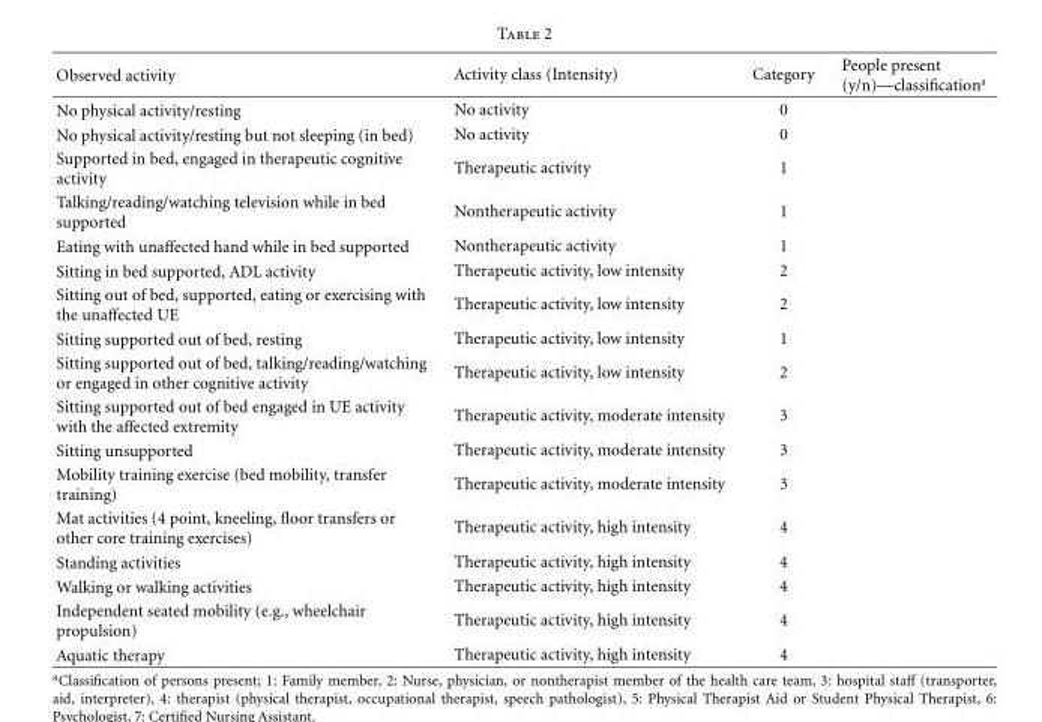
<table><thead><tr><td>Observed activity</td><td>Activity class (Intensity)</td><td>Category</td><td>People present (y/n)—classification<sup>a</sup></td></tr></thead><tbody><tr><td>No physical activity/resting</td><td>No activity</td><td>0</td><td></td></tr><tr><td>No physical activity/resting but not sleeping (in bed)</td><td>No activity</td><td>0</td><td></td></tr><tr><td>Supported in bed, engaged in therapeutic cognitive activity</td><td>Therapeutic activity</td><td>1</td><td></td></tr><tr><td>Talking/reading/watching television while in bed supported</td><td>Nontherapeutic activity</td><td>1</td><td></td></tr><tr><td>Eating with unaffected hand while in bed supported</td><td>Nontherapeutic activity</td><td>1</td><td></td></tr><tr><td>Sitting in bed supported, ADL activity</td><td>Therapeutic activity, low intensity</td><td>2</td><td></td></tr><tr><td>Sitting out of bed, supported, eating or exercising with the unaffected UE</td><td>Therapeutic activity, low intensity</td><td>2</td><td></td></tr><tr><td>Sitting supported out of bed, resting</td><td>Therapeutic activity, low intensity</td><td>1</td><td></td></tr><tr><td>Sitting supported out of bed, talking/reading/watching or engaged in other cognitive activity</td><td>Therapeutic activity, low intensity</td><td>2</td><td></td></tr><tr><td>Sitting supported out of bed engaged in UE activity with the affected extremity</td><td>Therapeutic activity, moderate intensity</td><td>3</td><td></td></tr><tr><td>Sitting unsupported</td><td>Therapeutic activity, moderate intensity</td><td>3</td><td></td></tr><tr><td>Mobility training exercise (bed mobility, transfer training)</td><td>Therapeutic activity, moderate intensity</td><td>3</td><td></td></tr><tr><td>Mat activities (4 point, kneeling, floor transfers or other core training exercises)</td><td>Therapeutic activity, high intensity</td><td>4</td><td></td></tr><tr><td>Standing activities</td><td>Therapeutic activity, high intensity</td><td>4</td><td></td></tr><tr><td>Walking or walking activities</td><td>Therapeutic activity, high intensity</td><td>4</td><td></td></tr><tr><td>Independent seated mobility (e.g., wheelchair propulsion)</td><td>Therapeutic activity, high intensity</td><td>4</td><td></td></tr><tr><td>Aquatic therapy</td><td>Therapeutic activity, high intensity</td><td>4</td><td></td></tr></tbody></table>